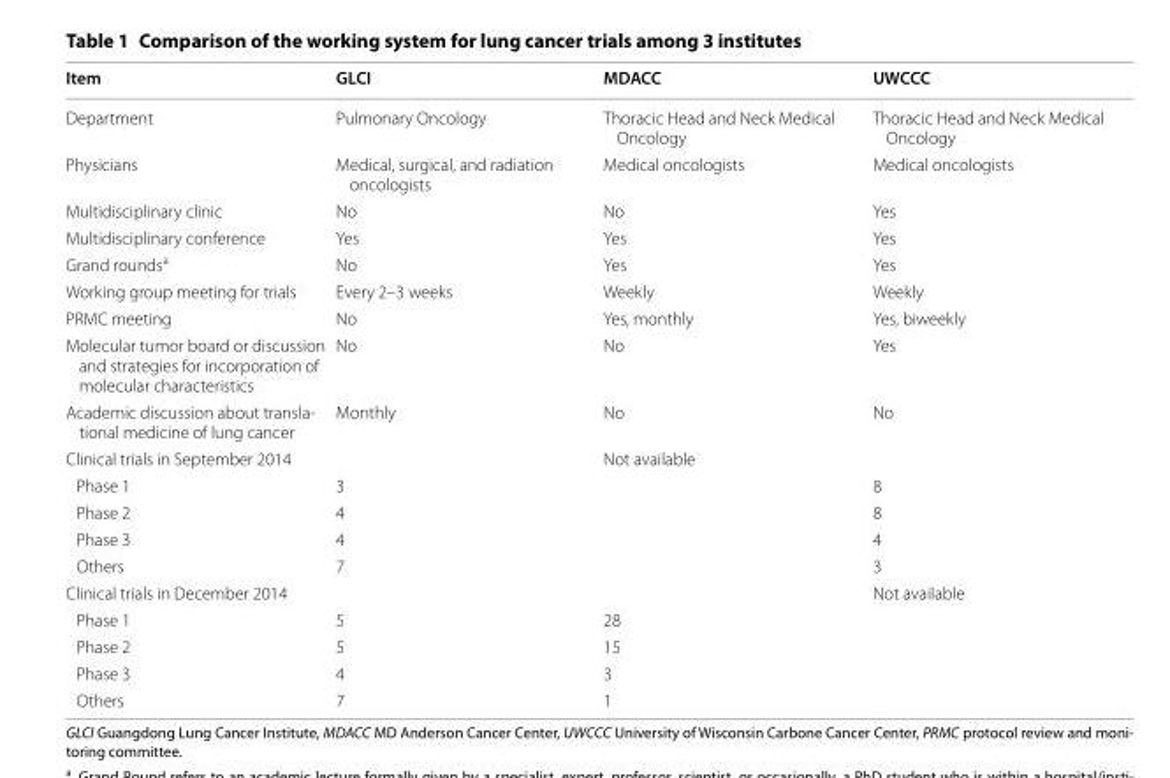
<table><thead><tr><td>Item</td><td>GLCI</td><td>MDACC</td><td>UWCCC</td></tr></thead><tbody><tr><td>Department</td><td>Pulmonary Oncology</td><td>Thoracic Head and Neck Medical Oncology</td><td>Thoracic Head and Neck Medical Oncology</td></tr><tr><td>Physicians</td><td>Medical, surgical, and radiation oncologists</td><td>Medical oncologists</td><td>Medical oncologists</td></tr><tr><td>Multidisciplinary clinic</td><td>No</td><td>No</td><td>Yes</td></tr><tr><td>Multidisciplinary conference</td><td>Yes</td><td>Yes</td><td>Yes</td></tr><tr><td>Grand rounds<sup>a</sup></td><td>No</td><td>Yes</td><td>Yes</td></tr><tr><td>Working group meeting for trials</td><td>Every 2–3 weeks</td><td>Weekly</td><td>Weekly</td></tr><tr><td>PRMC meeting</td><td>No</td><td>Yes, monthly</td><td>Yes, biweekly</td></tr><tr><td>Molecular tumor board or discussion and strategies for incorporation of molecular characteristics</td><td>No</td><td>No</td><td>Yes</td></tr><tr><td>Academic discussion about transla‑ tional medicine of lung cancer</td><td>Monthly</td><td>No</td><td>No</td></tr><tr><td>Clinical trials in September 2014</td><td></td><td>Not available</td><td></td></tr><tr><td>Phase 1</td><td>3</td><td></td><td>8</td></tr><tr><td>Phase 2</td><td>4</td><td></td><td>8</td></tr><tr><td>Phase 3</td><td>4</td><td></td><td>4</td></tr><tr><td>Others</td><td>7</td><td></td><td>3</td></tr><tr><td>Clinical trials in December 2014</td><td></td><td></td><td>Not available</td></tr><tr><td>Phase 1</td><td>5</td><td>28</td><td></td></tr><tr><td>Phase 2</td><td>5</td><td>15</td><td></td></tr><tr><td>Phase 3</td><td>4</td><td>3</td><td></td></tr><tr><td>Others</td><td>7</td><td>1</td><td></td></tr></tbody></table>